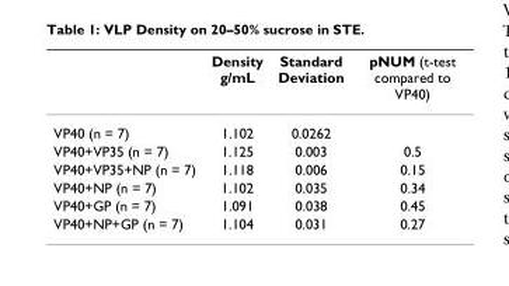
<table><thead><tr><td></td><td>Density g/mL</td><td>Standard Deviation</td><td>pNUM (t-test compared to VP40)</td></tr></thead><tbody><tr><td>VP40 (n = 7)</td><td>1.102</td><td>0.0262</td><td></td></tr><tr><td>VP40+VP35 (n = 7)</td><td>1.125</td><td>0.003</td><td>0.5</td></tr><tr><td>VP40+VP35+NP (n = 7)</td><td>1.118</td><td>0.006</td><td>0.15</td></tr><tr><td>VP40+NP (n = 7)</td><td>1.102</td><td>0.035</td><td>0.34</td></tr><tr><td>VP40+GP (n = 7)</td><td>1.091</td><td>0.038</td><td>0.45</td></tr><tr><td>VP40+NP+GP (n = 7)</td><td>1.104</td><td>0.031</td><td>0.27</td></tr></tbody></table>